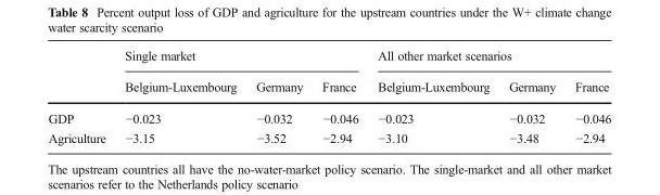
<table><thead><tr><td rowspan="2"></td><td colspan="3">Single market</td><td colspan="3">All other market scenarios</td></tr><tr><td>Belgium-Luxembourg</td><td>Germany</td><td>France</td><td>Belgium-Luxembourg</td><td>Germany</td><td>France</td></tr></thead><tbody><tr><td>GDP</td><td>−0.023</td><td>−0.032</td><td>−0.046</td><td>−0.023</td><td>−0.032</td><td>−0.046</td></tr><tr><td>Agriculture</td><td>−3.15</td><td>−3.52</td><td>−2.94</td><td>−3.10</td><td>−3.48</td><td>−2.94</td></tr></tbody></table>